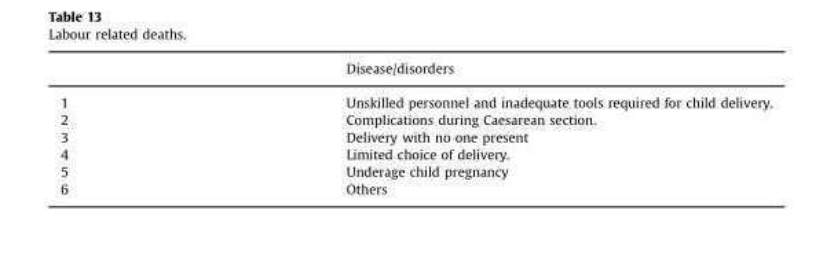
<table><thead><tr><td></td><td>Disease/disorders</td></tr></thead><tbody><tr><td>1</td><td>Unskilled personnel and inadequate tools required for child delivery.</td></tr><tr><td>2</td><td>Complications during Caesarean section.</td></tr><tr><td>3</td><td>Delivery with no one present</td></tr><tr><td>4</td><td>Limited choice of delivery.</td></tr><tr><td>5</td><td>Underage child pregnancy</td></tr><tr><td>6</td><td>Others</td></tr></tbody></table>